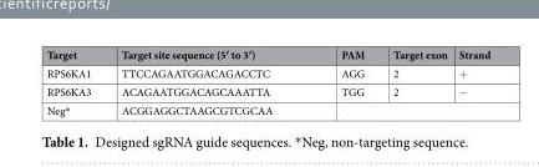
<table><thead><tr><td>Target</td><td>Target site sequence (5′ to 3′)</td><td>PAM</td><td>Target exon</td><td>Strand</td></tr></thead><tbody><tr><td>RPS6KA1</td><td>TTCCAGAATGGACAGACCTC</td><td>AGG</td><td>2</td><td>+</td></tr><tr><td>RPS6KA3</td><td>ACAGAATGGACAGCAAATTA</td><td>TGG</td><td>2</td><td>−</td></tr><tr><td>Neg*</td><td>ACGGAGGCTAAGCGTCGCAA</td><td colspan="3"></td></tr></tbody></table>